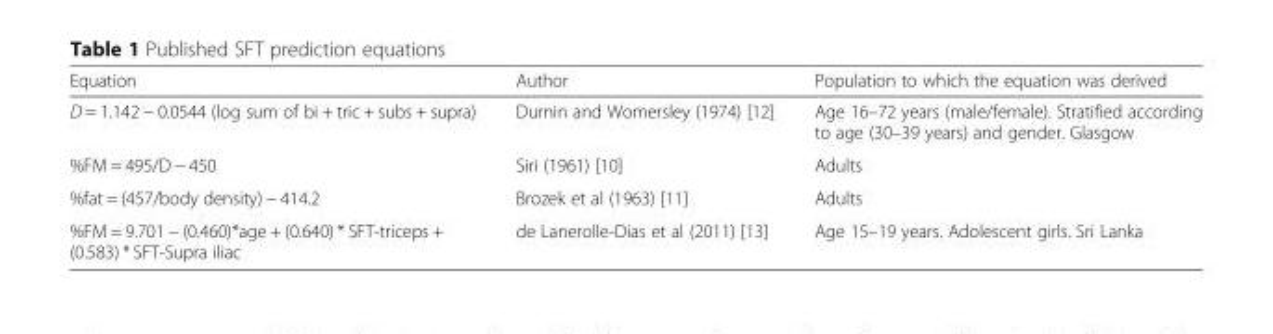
<table><thead><tr><td>Equation</td><td>Author</td><td>Population to which the equation was derived</td></tr></thead><tbody><tr><td>D = 1.142 − 0.0544 (log sum of bi + tric + subs + supra)</td><td>Durnin and Womersley (1974) [12]</td><td>Age 16–72 years (male/female). Stratified according to age (30–39 years) and gender. Glasgow</td></tr><tr><td>%FM = 495/D − 450</td><td>Siri (1961) [10]</td><td>Adults</td></tr><tr><td>%fat = (457/body density) − 414.2</td><td>Brozek et al (1963) [11]</td><td>Adults</td></tr><tr><td>%FM = 9.701 − (0.460)*age + (0.640) * SFT-triceps + (0.583) * SFT-Supra iliac</td><td>de Lanerolle-Dias et al (2011) [13]</td><td>Age 15–19 years. Adolescent girls. Sri Lanka</td></tr></tbody></table>